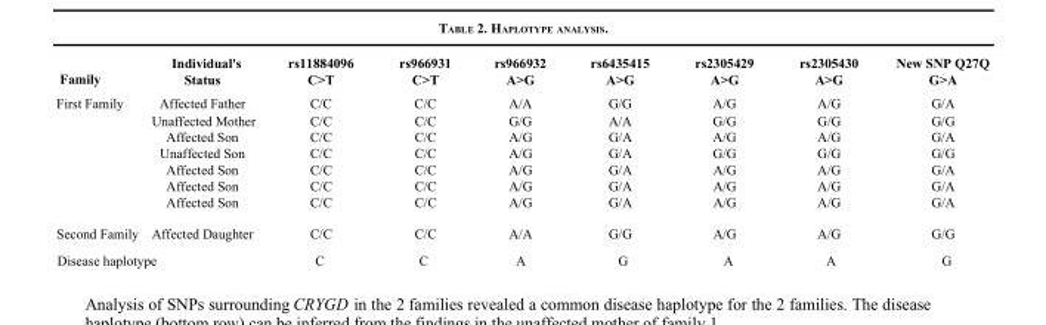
<table><thead><tr><td>Family</td><td>Individual&#x27;s Status</td><td>rs11884096 C&gt;T</td><td>rs966931 C&gt;T</td><td>rs966932 A&gt;G</td><td>rs6435415 A&gt;G</td><td>rs2305429 A&gt;G</td><td>rs2305430 A&gt;G</td><td>New SNP Q27Q G&gt;A</td></tr></thead><tbody><tr><td rowspan="7">First Family</td><td>Affected Father</td><td>C/C</td><td>C/C</td><td>A/A</td><td>G/G</td><td>A/G</td><td>A/G</td><td>G/A</td></tr><tr><td>Unaffected Mother</td><td>C/C</td><td>C/C</td><td>G/G</td><td>A/A</td><td>G/G</td><td>G/G</td><td>G/G</td></tr><tr><td>Affected Son</td><td>C/C</td><td>C/C</td><td>A/G</td><td>G/A</td><td>A/G</td><td>A/G</td><td>G/A</td></tr><tr><td>Unaffected Son</td><td>C/C</td><td>C/C</td><td>A/G</td><td>G/A</td><td>G/G</td><td>G/G</td><td>G/G</td></tr><tr><td>Affected Son</td><td>C/C</td><td>C/C</td><td>A/G</td><td>G/A</td><td>A/G</td><td>A/G</td><td>G/A</td></tr><tr><td>Affected Son</td><td>C/C</td><td>C/C</td><td>A/G</td><td>G/A</td><td>A/G</td><td>A/G</td><td>G/A</td></tr><tr><td>Affected Son</td><td>C/C</td><td>C/C</td><td>A/G</td><td>G/A</td><td>A/G</td><td>A/G</td><td>G/A</td></tr><tr><td>Second Family</td><td>Affected Daughter</td><td>C/C</td><td>C/C</td><td>A/A</td><td>G/G</td><td>A/G</td><td>A/G</td><td>G/G</td></tr><tr><td colspan="2">Disease haplotype</td><td>C</td><td>C</td><td>A</td><td>G</td><td>A</td><td>A</td><td>G</td></tr></tbody></table>